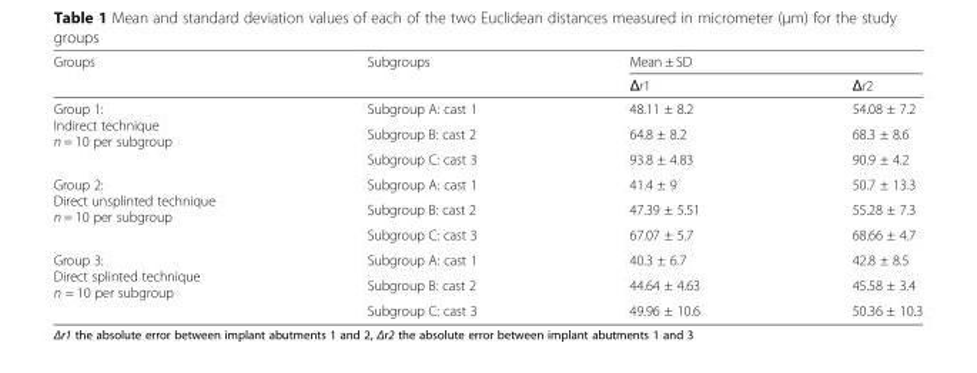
<table><thead><tr><td rowspan="2">Groups</td><td rowspan="2">Subgroups</td><td colspan="2">Mean ± SD</td></tr><tr><td>Δr1</td><td>Δr2</td></tr></thead><tbody><tr><td rowspan="3">Group 1: Indirect technique n = 10 per subgroup</td><td>Subgroup A: cast 1</td><td>48.11 ± 8.2</td><td>54.08 ± 7.2</td></tr><tr><td>Subgroup B: cast 2</td><td>64.8 ± 8.2</td><td>68.3 ± 8.6</td></tr><tr><td>Subgroup C: cast 3</td><td>93.8 ± 4.83</td><td>90.9 ± 4.2</td></tr><tr><td rowspan="3">Group 2: Direct unsplinted technique n = 10 per subgroup</td><td>Subgroup A: cast 1</td><td>41.4 ± 9</td><td>50.7 ± 13.3</td></tr><tr><td>Subgroup B: cast 2</td><td>47.39 ± 5.51</td><td>55.28 ± 7.3</td></tr><tr><td>Subgroup C: cast 3</td><td>67.07 ± 5.7</td><td>68.66 ± 4.7</td></tr><tr><td rowspan="3">Group 3: Direct splinted technique n = 10 per subgroup</td><td>Subgroup A: cast 1</td><td>40.3 ± 6.7</td><td>42.8 ± 8.5</td></tr><tr><td>Subgroup B: cast 2</td><td>44.64 ± 4.63</td><td>45.58 ± 3.4</td></tr><tr><td>Subgroup C: cast 3</td><td>49.96 ± 10.6</td><td>50.36 ± 10.3</td></tr></tbody></table>